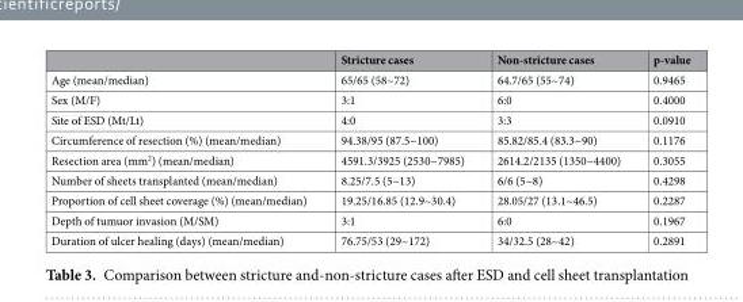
<table><thead><tr><td></td><td>Stricture cases</td><td>Non-stricture cases</td><td>p-value</td></tr></thead><tbody><tr><td>Age (mean/median)</td><td>65/65 (58~72)</td><td>64.7/65 (55~74)</td><td>0.9465</td></tr><tr><td>Sex (M/F)</td><td>3:1</td><td>6:0</td><td>0.4000</td></tr><tr><td>Site of ESD (Mt/Lt)</td><td>4:0</td><td>3:3</td><td>0.0910</td></tr><tr><td>Circumference of resection (%) (mean/median)</td><td>94.38/95 (87.5~100)</td><td>85.82/85.4 (83.3~90)</td><td>0.1176</td></tr><tr><td>Resection area (mm<sup>2</sup>) (mean/median)</td><td>4591.3/3925 (2530~7985)</td><td>2614.2/2135 (1350~4400)</td><td>0.3055</td></tr><tr><td>Number of sheets transplanted (mean/median)</td><td>8.25/7.5 (5~13)</td><td>6/6 (5~8)</td><td>0.4298</td></tr><tr><td>Proportion of cell sheet coverage (%) (mean/median)</td><td>19.25/16.85 (12.9~30.4)</td><td>28.05/27 (13.1~46.5)</td><td>0.2287</td></tr><tr><td>Depth of tumuor invasion (M/SM)</td><td>3:1</td><td>6:0</td><td>0.1967</td></tr><tr><td>Duration of ulcer healing (days) (mean/median)</td><td>76.75/53 (29~172)</td><td>34/32.5 (28~42)</td><td>0.2891</td></tr></tbody></table>